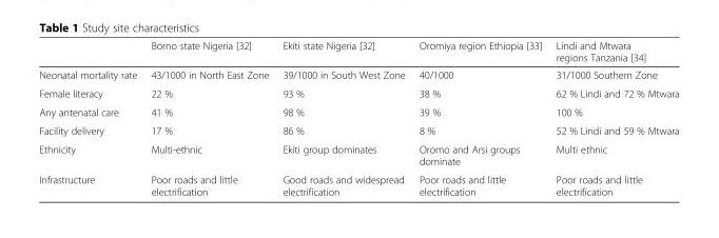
<table><thead><tr><td></td><td>Borno state Nigeria [32]</td><td>Ekiti state Nigeria [32]</td><td>Oromiya region Ethiopia [33]</td><td>Lindi and Mtwara regions Tanzania [34]</td></tr></thead><tbody><tr><td>Neonatal mortality rate</td><td>43/1000 in North East Zone</td><td>39/1000 in South West Zone</td><td>40/1000</td><td>31/1000 Southern Zone</td></tr><tr><td>Female literacy</td><td>22 %</td><td>93 %</td><td>38 %</td><td>62 % Lindi and 72 % Mtwara</td></tr><tr><td>Any antenatal care</td><td>41 %</td><td>98 %</td><td>39 %</td><td>100 %</td></tr><tr><td>Facility delivery</td><td>17 %</td><td>86 %</td><td>8 %</td><td>52 % Lindi and 59 % Mtwara</td></tr><tr><td>Ethnicity</td><td>Multi-ethnic</td><td>Ekiti group dominates</td><td>Oromo and Arsi groups dominate</td><td>Multi ethnic</td></tr><tr><td>Infrastructure</td><td>Poor roads and little electrification</td><td>Good roads and widespread electrification</td><td>Poor roads and little electrification</td><td>Poor roads and little electrification</td></tr></tbody></table>